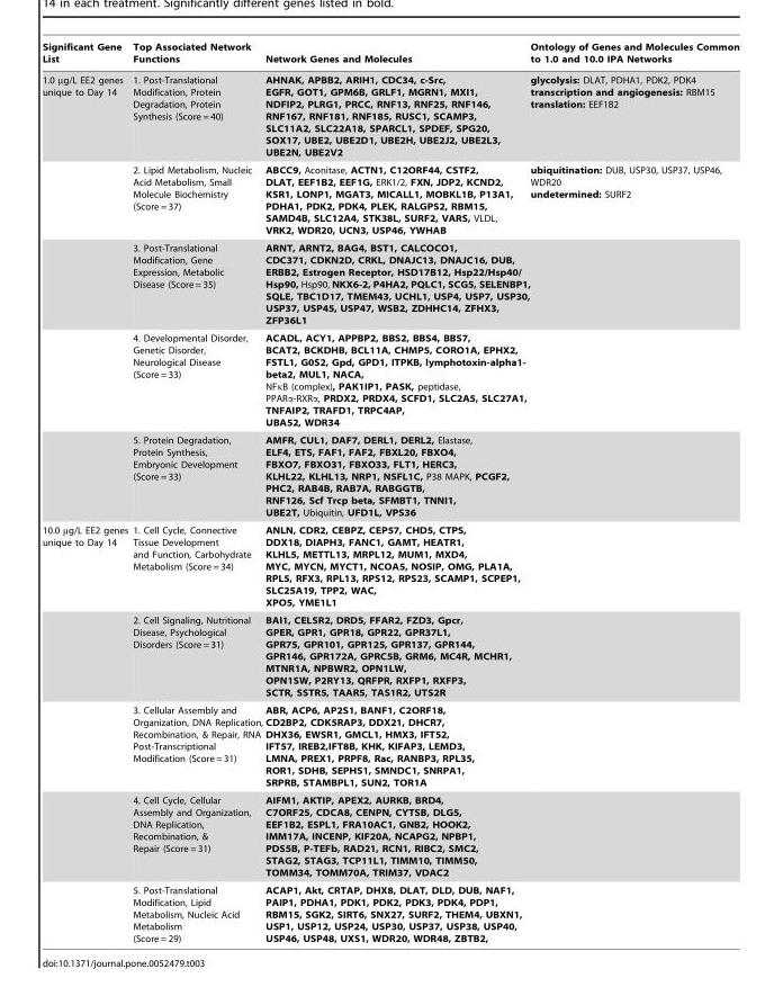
<table><thead><tr><td>Significant Gene List</td><td>Top Associated Network Functions</td><td>Network Genes and Molecules</td><td>Ontology of Genes and Molecules Common to 1.0 and 10.0 IPA Networks</td></tr></thead><tbody><tr><td rowspan="5">1.0 µg/L EE2 genes unique to Day 14</td><td>1. Post-Translational Modification, Protein Degradation, Protein Synthesis (Score = 40)</td><td>AHNAK, APBB2, ARIH1, CDC34, c-Src, EGFR, GOT1, GPM6B, GRLF1, MGRN1, MXI1, NDFIP2, PLRG1, PRCC, RNF13, RNF25, RNF146, RNF167, RNF181, RNF185, RUSC1, SCAMP3, SLC11A2, SLC22A18, SPARCL1, SPDEF, SPG20, SOX17, UBE2, UBE2D1, UBE2H, UBE2J2, UBE2L3, UBE2N, UBE2V2</td><td>glycolysis: DLAT, PDHA1, PDK2, PDK4 transcription and angiogenesis: RBM15 translation: EEF1B2</td></tr><tr><td>2. Lipid Metabolism, Nucleic Acid Metabolism, Small Molecule Biochemistry (Score = 37)</td><td>ABCC9, Aconitase, ACTN1, C12ORF44, CSTF2, DLAT, EEF1B2, EEF1G, ERK1/2, FXN, JDP2, KCND2, KSR1, LONP1, MGAT3, MICALL1, MOBKL1B, P13A1, PDHA1, PDK2, PDK4, PLEK, RALGPS2, RBM15, SAMD4B, SLC12A4, STK38L, SURF2, VARS, VLDL, VRK2, WDR20, UCN3, USP46, YWHAB</td><td>ubiquitination: DUB, USP30, USP37, USP46, WDR20 undetermined: SURF2</td></tr><tr><td>3. Post-Translational Modification, Gene Expression, Metabolic Disease (Score = 35)</td><td>ARNT, ARNT2, BAG4, BST1, CALCOCO1, CDC371, CDKN2D, CRKL, DNAJC13, DNAJC16, DUB, ERBB2, Estrogen Receptor, HSD17B12, Hsp22/Hsp40/ Hsp90, Hsp90, NKX6-2, P4HA2, PQLC1, SCG5, SELENBP1, SQLE, TBC1D17, TMEM43, UCHL1, USP4, USP7, USP30, USP37, USP45, USP47, WSB2, ZDHHC14, ZFHX3, ZFP36L1</td><td></td></tr><tr><td>4. Developmental Disorder, Genetic Disorder, Neurological Disease (Score = 33)</td><td>ACADL, ACY1, APPBP2, BBS2, BBS4, BBS7, BCAT2, BCKDHB, BCL11A, CHMP5, CORO1A, EPHX2, FSTL1, G0S2, Gpd, GPD1, ITPKB, lymphotoxin-alpha1- beta2, MUL1, NACA, NFκB (complex), PAK1IP1, PASK, peptidase, PPARα-RXRα, PRDX2, PRDX4, SCFD1, SLC2A5, SLC27A1, TNFAIP2, TRAFD1, TRPC4AP, UBA52, WDR34</td><td></td></tr><tr><td>5. Protein Degradation, Protein Synthesis, Embryonic Development (Score = 33)</td><td>AMFR, CUL1, DAF7, DERL1, DERL2, Elastase, ELF4, ETS, FAF1, FAF2, FBXL20, FBXO4, FBXO7, FBXO31, FBXO33, FLT1, HERC3, KLHL22, KLHL13, NRP1, NSFL1C, P38 MAPK, PCGF2, PHC2, RAB4B, RAB7A, RABGGTB, RNF126, Scf Trcp beta, SFMBT1, TNNI1, UBE2T, Ubiquitin, UFD1L, VPS36</td><td></td></tr><tr><td rowspan="5">10.0 µg/L EE2 genes unique to Day 14</td><td>1. Cell Cycle, Connective Tissue Development and Function, Carbohydrate Metabolism (Score = 34)</td><td>ANLN, CDR2, CEBPZ, CEP57, CHD5, CTPS, DDX18, DIAPH3, FANC1, GAMT, HEATR1, KLHL5, METTL13, MRPL12, MUM1, MXD4, MYC, MYCN, MYCT1, NCOA5, NOSIP, OMG, PLA1A, RPL5, RFX3, RPL13, RPS12, RPS23, SCAMP1, SCPEP1, SLC25A19, TPP2, WAC, XPO5, YME1L1</td><td></td></tr><tr><td>2. Cell Signaling, Nutritional Disease, Psychological Disorders (Score = 31)</td><td>BAI1, CELSR2, DRD5, FFAR2, FZD3, Gpcr, GPER, GPR1, GPR18, GPR22, GPR37L1, GPR75, GPR101, GPR125, GPR137, GPR144, GPR146, GPR172A, GPRC5B, GRM6, MC4R, MCHR1, MTNR1A, NPBWR2, OPN1LW, OPN1SW, P2RY13, QRFPR, RXFP1, RXFP3, SCTR, SSTR5, TAAR5, TAS1R2, UTS2R</td><td></td></tr><tr><td>3. Cellular Assembly and Organization, DNA Replication, Recombination, &amp; Repair, RNA Post-Transcriptional Modification (Score = 31)</td><td>ABR, ACP6, AP2S1, BANF1, C2ORF18, CD2BP2, CDK5RAP3, DDX21, DHCR7, DHX36, EWSR1, GMCL1, HMX3, IFT52, IFT57, IREB2,IFT8B, KHK, KIFAP3, LEMD3, LMNA, PREX1, PRPF8, Rac, RANBP3, RPL35, ROR1, SDHB, SEPHS1, SMNDC1, SNRPA1, SRPRB, STAMBPL1, SUN2, TOR1A</td><td></td></tr><tr><td>4. Cell Cycle, Cellular Assembly and Organization, DNA Replication, Recombination, &amp; Repair (Score = 31)</td><td>AIFM1, AKTIP, APEX2, AURKB, BRD4, C7ORF25, CDCA8, CENPN, CYTSB, DLG5, EEF1B2, ESPL1, FRA10AC1, GNB2, HOOK2, IMM17A, INCENP, KIF20A, NCAPG2, NPBP1, PDS5B, P-TEFb, RAD21, RCN1, RIBC2, SMC2, STAG2, STAG3, TCP11L1, TIMM10, TIMM50, TOMM34, TOMM70A, TRIM37, VDAC2</td><td></td></tr><tr><td>5. Post-Translational Modification, Lipid Metabolism, Nucleic Acid Metabolism (Score = 29)</td><td>ACAP1, Akt, CRTAP, DHX8, DLAT, DLD, DUB, NAF1, PAIP1, PDHA1, PDK1, PDK2, PDK3, PDK4, PDP1, RBM15, SGK2, SIRT6, SNX27, SURF2, THEM4, UBXN1, USP1, USP12, USP24, USP30, USP37, USP38, USP40, USP46, USP48, UXS1, WDR20, WDR48, ZBTB2,</td><td></td></tr></tbody></table>